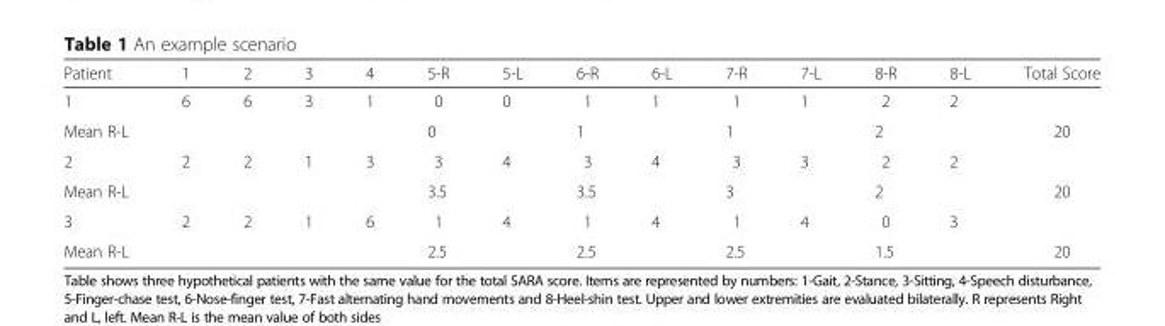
<table><thead><tr><td>Patient</td><td>1</td><td>2</td><td>3</td><td>4</td><td>5-R</td><td>5-L</td><td>6-R</td><td>6-L</td><td>7-R</td><td>7-L</td><td>8-R</td><td>8-L</td><td>Total Score</td></tr></thead><tbody><tr><td>1</td><td>6</td><td>6</td><td>3</td><td>1</td><td>0</td><td>0</td><td>1</td><td>1</td><td>1</td><td>1</td><td>2</td><td>2</td><td></td></tr><tr><td>Mean R-L</td><td></td><td></td><td></td><td></td><td colspan="2">0</td><td colspan="2">1</td><td colspan="2">1</td><td colspan="2">2</td><td>20</td></tr><tr><td>2</td><td>2</td><td>2</td><td>1</td><td>3</td><td>3</td><td>4</td><td>3</td><td>4</td><td>3</td><td>3</td><td>2</td><td>2</td><td></td></tr><tr><td>Mean R-L</td><td></td><td></td><td></td><td></td><td colspan="2">3.5</td><td colspan="2">3.5</td><td colspan="2">3</td><td colspan="2">2</td><td>20</td></tr><tr><td>3</td><td>2</td><td>2</td><td>1</td><td>6</td><td>1</td><td>4</td><td>1</td><td>4</td><td>1</td><td>4</td><td>0</td><td>3</td><td></td></tr><tr><td>Mean R-L</td><td></td><td></td><td></td><td></td><td colspan="2">2.5</td><td colspan="2">2.5</td><td colspan="2">2.5</td><td colspan="2">1.5</td><td>20</td></tr></tbody></table>